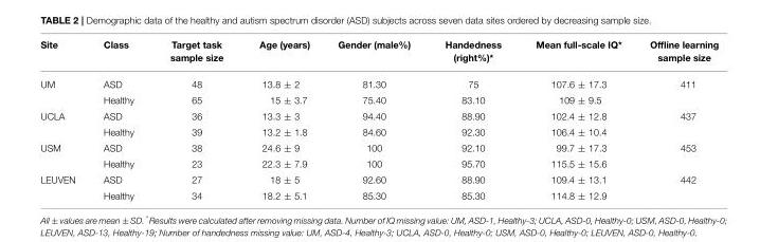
<table><thead><tr><td>Site</td><td>Class</td><td>Target task sample size</td><td>Age (years)</td><td>Gender (male%)</td><td>Handedness (right%)*</td><td>Mean full-scale IQ*</td><td>Offline learning sample size</td></tr></thead><tbody><tr><td rowspan="2">UM</td><td>ASD</td><td>48</td><td>13.8 ± 2</td><td>81.30</td><td>75</td><td>107.6 ± 17.3</td><td>411</td></tr><tr><td>Healthy</td><td>65</td><td>15 ± 3.7</td><td>75.40</td><td>83.10</td><td>109 ± 9.5</td><td></td></tr><tr><td rowspan="2">UCLA</td><td>ASD</td><td>36</td><td>13.3 ± 3</td><td>94.40</td><td>88.90</td><td>102.4 ± 12.8</td><td>437</td></tr><tr><td>Healthy</td><td>39</td><td>13.2 ± 1.8</td><td>84.60</td><td>92.30</td><td>106.4 ± 10.4</td><td></td></tr><tr><td rowspan="2">USM</td><td>ASD</td><td>38</td><td>24.6 ± 9</td><td>100</td><td>92.10</td><td>99.7 ± 17.3</td><td>453</td></tr><tr><td>Healthy</td><td>23</td><td>22.3 ± 7.9</td><td>100</td><td>95.70</td><td>115.5 ± 15.6</td><td></td></tr><tr><td rowspan="2">LEUVEN</td><td>ASD</td><td>27</td><td>18 ± 5</td><td>92.60</td><td>88.90</td><td>109.4 ± 13.1</td><td>442</td></tr><tr><td>Healthy</td><td>34</td><td>18.2 ± 5.1</td><td>85.30</td><td>85.30</td><td>114.8 ± 12.9</td><td></td></tr></tbody></table>